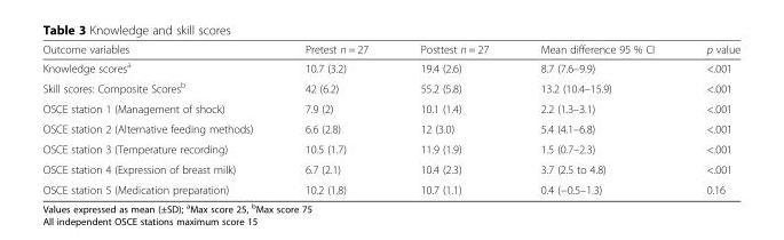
<table><thead><tr><td>Outcome variables</td><td>Pretest n = 27</td><td>Posttest n = 27</td><td>Mean difference 95 % CI</td><td>p value</td></tr></thead><tbody><tr><td>Knowledge scores<sup>a</sup></td><td>10.7 (3.2)</td><td>19.4 (2.6)</td><td>8.7 (7.6–9.9)</td><td>&lt;.001</td></tr><tr><td>Skill scores: Composite Scores<sup>b</sup></td><td>42 (6.2)</td><td>55.2 (5.8)</td><td>13.2 (10.4–15.9)</td><td>&lt;.001</td></tr><tr><td>OSCE station 1 (Management of shock)</td><td>7.9 (2)</td><td>10.1 (1.4)</td><td>2.2 (1.3–3.1)</td><td>&lt;.001</td></tr><tr><td>OSCE station 2 (Alternative feeding methods)</td><td>6.6 (2.8)</td><td>12 (3.0)</td><td>5.4 (4.1–6.8)</td><td>&lt;.001</td></tr><tr><td>OSCE station 3 (Temperature recording)</td><td>10.5 (1.7)</td><td>11.9 (1.9)</td><td>1.5 (0.7–2.3)</td><td>&lt;.001</td></tr><tr><td>OSCE station 4 (Expression of breast milk)</td><td>6.7 (2.1)</td><td>10.4 (2.3)</td><td>3.7 (2.5 to 4.8)</td><td>&lt;.001</td></tr><tr><td>OSCE station 5 (Medication preparation)</td><td>10.2 (1.8)</td><td>10.7 (1.1)</td><td>0.4 (−0.5–1.3)</td><td>0.16</td></tr></tbody></table>